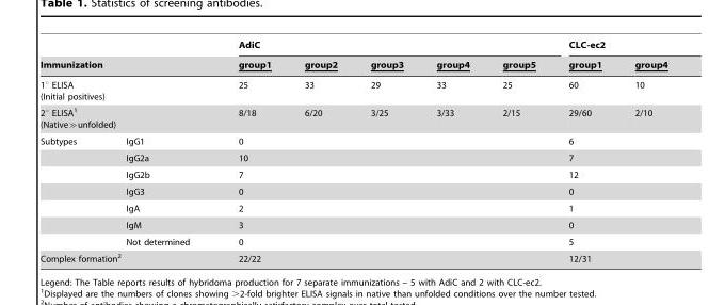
<table><thead><tr><td></td><td></td><td colspan="5">AdiC</td><td colspan="2">CLC-ec2</td></tr><tr><td colspan="2">Immunization</td><td>group1</td><td>group2</td><td>group3</td><td>group4</td><td>group5</td><td>group1</td><td>group4</td></tr></thead><tbody><tr><td colspan="2">1° ELISA (Initial positives)</td><td>25</td><td>33</td><td>29</td><td>33</td><td>25</td><td>60</td><td>10</td></tr><tr><td colspan="2">2° ELISA<sup>1</sup> (Native≫unfolded)</td><td>8/18</td><td>6/20</td><td>3/25</td><td>3/33</td><td>2/15</td><td>29/60</td><td>2/10</td></tr><tr><td rowspan="7">Subtypes</td><td>IgG1</td><td colspan="5">0</td><td colspan="2">6</td></tr><tr><td>IgG2a</td><td colspan="5">10</td><td colspan="2">7</td></tr><tr><td>IgG2b</td><td colspan="5">7</td><td colspan="2">12</td></tr><tr><td>IgG3</td><td colspan="5">0</td><td colspan="2">0</td></tr><tr><td>IgA</td><td colspan="5">2</td><td colspan="2">1</td></tr><tr><td>IgM</td><td colspan="5">3</td><td colspan="2">0</td></tr><tr><td>Not determined</td><td colspan="5">0</td><td colspan="2">5</td></tr><tr><td colspan="2">Complex formation<sup>2</sup></td><td colspan="5">22/22</td><td colspan="2">12/31</td></tr></tbody></table>